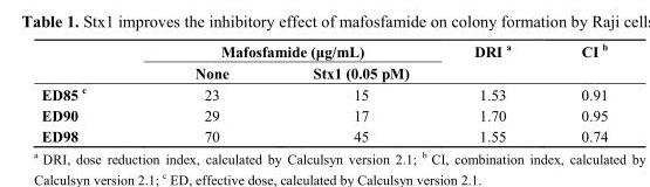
<table><thead><tr><td rowspan="2"></td><td colspan="2">Mafosfamide (μg/mL)</td><td rowspan="2">DRI <sup>a</sup></td><td rowspan="2">CI <sup>b</sup></td></tr><tr><td>None</td><td>Stx1 (0.05 pM)</td></tr></thead><tbody><tr><td>ED85 <sup>c</sup></td><td>23</td><td>15</td><td>1.53</td><td>0.91</td></tr><tr><td>ED90</td><td>29</td><td>17</td><td>1.70</td><td>0.95</td></tr><tr><td>ED98</td><td>70</td><td>45</td><td>1.55</td><td>0.74</td></tr></tbody></table>